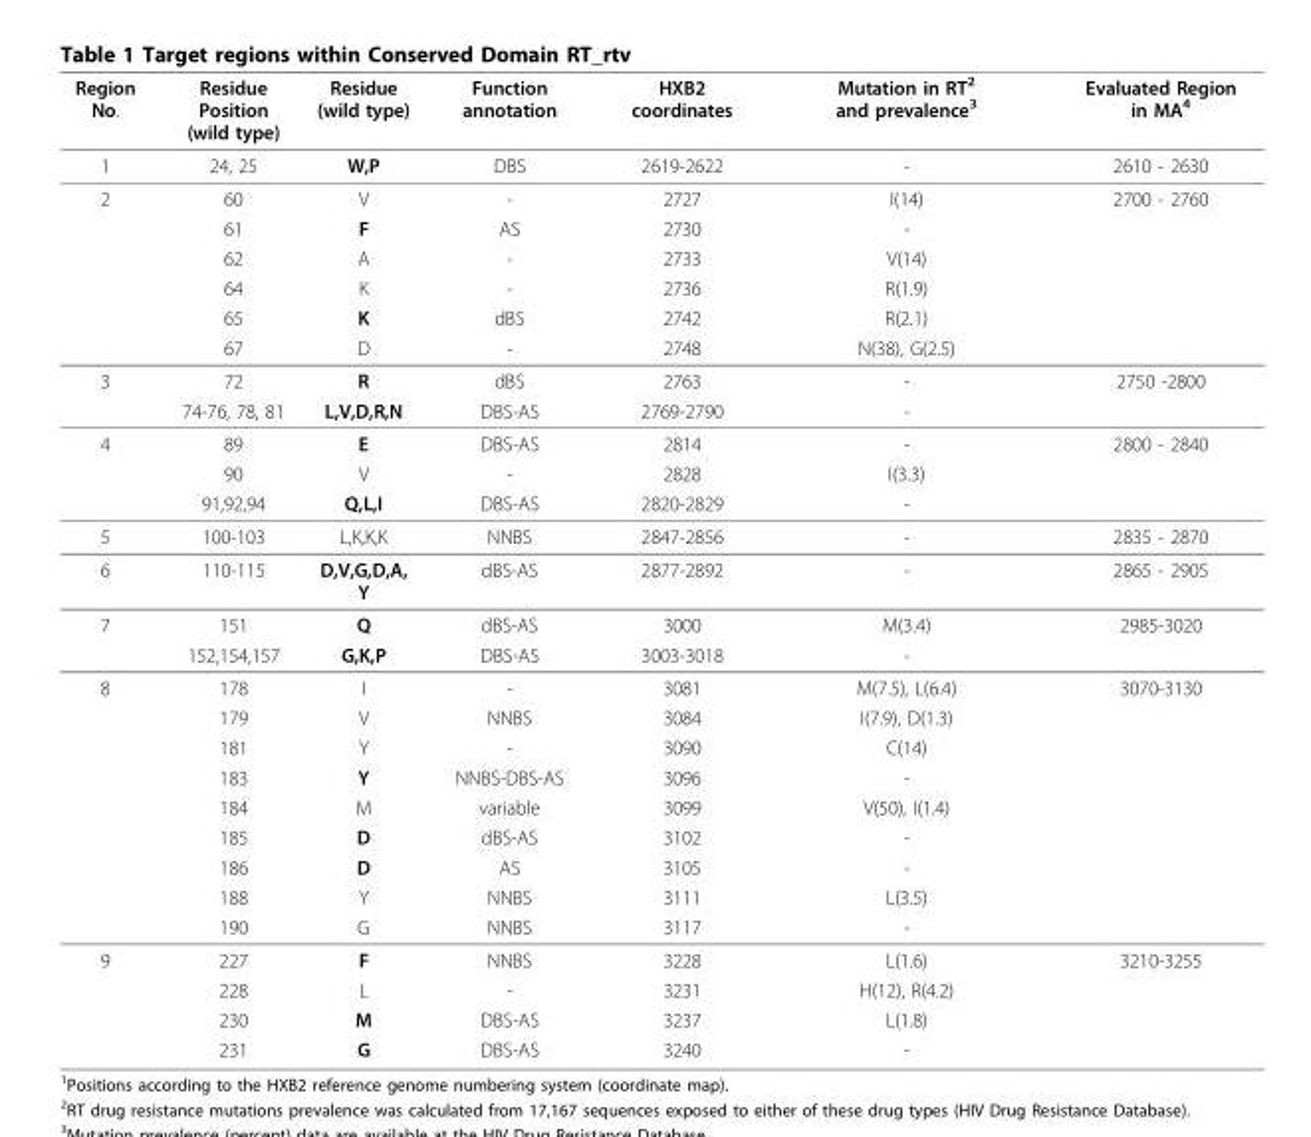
<table><thead><tr><td>Region No.</td><td>Residue Position (wild type)</td><td>Residue (wild type)</td><td>Function annotation</td><td>HXB2 coordinates</td><td>Mutation in RT<sup>2</sup> and prevalence<sup>3</sup></td><td>Evaluated Region in MA<sup>4</sup></td></tr></thead><tbody><tr><td>1</td><td>24, 25</td><td>W,P</td><td>DBS</td><td>2619-2622</td><td>-</td><td>2610 - 2630</td></tr><tr><td rowspan="6">2</td><td>60</td><td>V</td><td>-</td><td>2727</td><td>I(14)</td><td>2700 - 2760</td></tr><tr><td>61</td><td>F</td><td>AS</td><td>2730</td><td>-</td><td></td></tr><tr><td>62</td><td>A</td><td>-</td><td>2733</td><td>V(14)</td><td></td></tr><tr><td>64</td><td>K</td><td>-</td><td>2736</td><td>R(1.9)</td><td></td></tr><tr><td>65</td><td>K</td><td>dBS</td><td>2742</td><td>R(2.1)</td><td></td></tr><tr><td>67</td><td>D</td><td>-</td><td>2748</td><td>N(38), G(2.5)</td><td></td></tr><tr><td rowspan="2">3</td><td>72</td><td>R</td><td>dBS</td><td>2763</td><td>-</td><td>2750 -2800</td></tr><tr><td>74-76, 78, 81</td><td>L,V,D,R,N</td><td>DBS-AS</td><td>2769-2790</td><td>-</td><td></td></tr><tr><td rowspan="3">4</td><td>89</td><td>E</td><td>DBS-AS</td><td>2814</td><td>-</td><td>2800 - 2840</td></tr><tr><td>90</td><td>V</td><td>-</td><td>2828</td><td>I(3.3)</td><td></td></tr><tr><td>91,92,94</td><td>Q,L,I</td><td>DBS-AS</td><td>2820-2829</td><td>-</td><td></td></tr><tr><td>5</td><td>100-103</td><td>L,K,K,K</td><td>NNBS</td><td>2847-2856</td><td>-</td><td>2835 - 2870</td></tr><tr><td>6</td><td>110-115</td><td>D,V,G,D,A, Y</td><td>dBS-AS</td><td>2877-2892</td><td>-</td><td>2865 - 2905</td></tr><tr><td rowspan="2">7</td><td>151</td><td>Q</td><td>dBS-AS</td><td>3000</td><td>M(3.4)</td><td>2985-3020</td></tr><tr><td>152,154,157</td><td>G,K,P</td><td>DBS-AS</td><td>3003-3018</td><td>-</td><td></td></tr><tr><td rowspan="9">8</td><td>178</td><td>I</td><td>-</td><td>3081</td><td>M(7.5), L(6.4)</td><td>3070-3130</td></tr><tr><td>179</td><td>V</td><td>NNBS</td><td>3084</td><td>I(7.9), D(1.3)</td><td></td></tr><tr><td>181</td><td>Y</td><td>-</td><td>3090</td><td>C(14)</td><td></td></tr><tr><td>183</td><td>Y</td><td>NNBS-DBS-AS</td><td>3096</td><td>-</td><td></td></tr><tr><td>184</td><td>M</td><td>variable</td><td>3099</td><td>V(50), I(1.4)</td><td></td></tr><tr><td>185</td><td>D</td><td>dBS-AS</td><td>3102</td><td>-</td><td></td></tr><tr><td>186</td><td>D</td><td>AS</td><td>3105</td><td>-</td><td></td></tr><tr><td>188</td><td>Y</td><td>NNBS</td><td>3111</td><td>L(3.5)</td><td></td></tr><tr><td>190</td><td>G</td><td>NNBS</td><td>3117</td><td>-</td><td></td></tr><tr><td rowspan="4">9</td><td>227</td><td>F</td><td>NNBS</td><td>3228</td><td>L(1.6)</td><td>3210-3255</td></tr><tr><td>228</td><td>L</td><td>-</td><td>3231</td><td>H(12), R(4.2)</td><td></td></tr><tr><td>230</td><td>M</td><td>DBS-AS</td><td>3237</td><td>L(1.8)</td><td></td></tr><tr><td>231</td><td>G</td><td>DBS-AS</td><td>3240</td><td>-</td><td></td></tr></tbody></table>